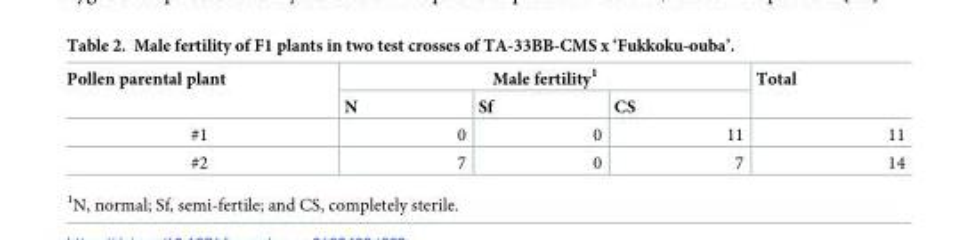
<table><thead><tr><td rowspan="2">Pollen parental plant</td><td colspan="3">Male fertility<sup>1</sup></td><td rowspan="2">Total</td></tr><tr><td>N</td><td>Sf</td><td>CS</td></tr></thead><tbody><tr><td>#1</td><td>0</td><td>0</td><td>11</td><td>11</td></tr><tr><td>#2</td><td>7</td><td>0</td><td>7</td><td>14</td></tr></tbody></table>